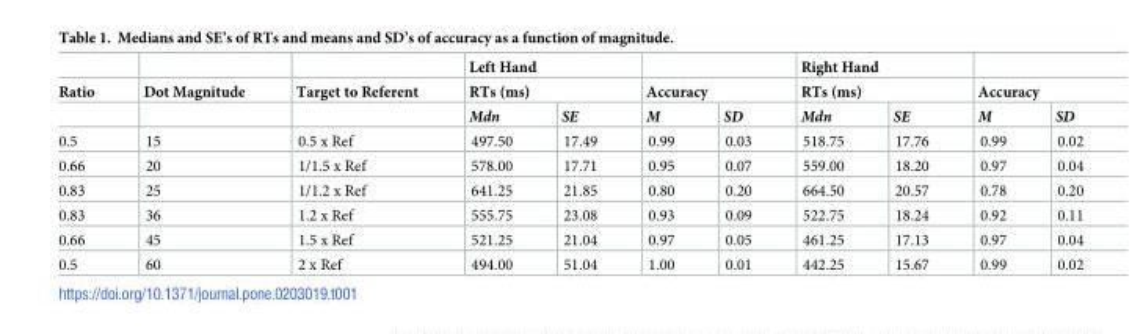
<table><thead><tr><td rowspan="3">Ratio</td><td rowspan="3">Dot Magnitude</td><td rowspan="3">Target to Referent</td><td rowspan="2" colspan="2">Left Hand RTs (ms)</td><td></td><td></td><td rowspan="2" colspan="2">Right Hand RTs (ms)</td><td></td><td></td></tr><tr><td colspan="2">Accuracy</td><td colspan="2">Accuracy</td></tr><tr><td>Mdn</td><td>SE</td><td>M</td><td>SD</td><td>Mdn</td><td>SE</td><td>M</td><td>SD</td></tr></thead><tbody><tr><td>0.5</td><td>15</td><td>0.5 x Ref</td><td>497.50</td><td>17.49</td><td>0.99</td><td>0.03</td><td>518.75</td><td>17.76</td><td>0.99</td><td>0.02</td></tr><tr><td>0.66</td><td>20</td><td>1/1.5 x Ref</td><td>578.00</td><td>17.71</td><td>0.95</td><td>0.07</td><td>559.00</td><td>18.20</td><td>0.97</td><td>0.04</td></tr><tr><td>0.83</td><td>25</td><td>1/1.2 x Ref</td><td>641.25</td><td>21.85</td><td>0.80</td><td>0.20</td><td>664.50</td><td>20.57</td><td>0.78</td><td>0.20</td></tr><tr><td>0.83</td><td>36</td><td>1.2 x Ref</td><td>555.75</td><td>23.08</td><td>0.93</td><td>0.09</td><td>522.75</td><td>18.24</td><td>0.92</td><td>0.11</td></tr><tr><td>0.66</td><td>45</td><td>1.5 x Ref</td><td>521.25</td><td>21.04</td><td>0.97</td><td>0.05</td><td>461.25</td><td>17.13</td><td>0.97</td><td>0.04</td></tr><tr><td>0.5</td><td>60</td><td>2 x Ref</td><td>494.00</td><td>51.04</td><td>1.00</td><td>0.01</td><td>442.25</td><td>15.67</td><td>0.99</td><td>0.02</td></tr></tbody></table>